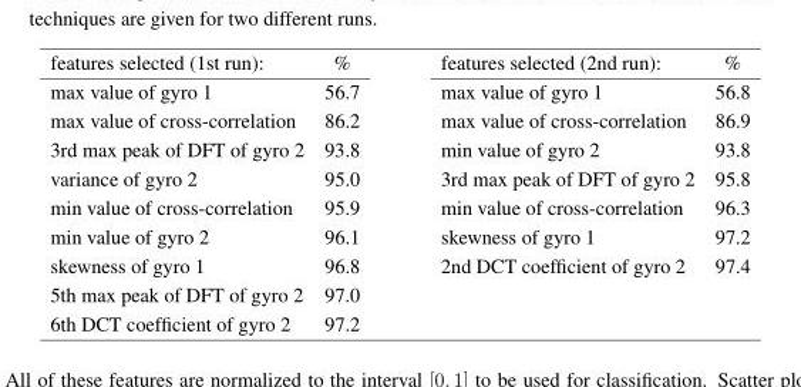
<table><thead><tr><td>features selected (1st run):</td><td>%</td><td>features selected (2nd run):</td><td>%</td></tr></thead><tbody><tr><td>max value of gyro 1</td><td>56.7</td><td>max value of gyro 1</td><td>56.8</td></tr><tr><td>max value of cross-correlation</td><td>86.2</td><td>max value of cross-correlation</td><td>86.9</td></tr><tr><td>3rd max peak of DFT of gyro 2</td><td>93.8</td><td>min value of gyro 2</td><td>93.8</td></tr><tr><td>variance of gyro 2</td><td>95.0</td><td>3rd max peak of DFT of gyro 2</td><td>95.8</td></tr><tr><td>min value of cross-correlation</td><td>95.9</td><td>min value of cross-correlation</td><td>96.3</td></tr><tr><td>min value of gyro 2</td><td>96.1</td><td>skewness of gyro 1</td><td>97.2</td></tr><tr><td>skewness of gyro 1</td><td>96.8</td><td>2nd DCT coefficient of gyro 2</td><td>97.4</td></tr><tr><td>5th max peak of DFT of gyro 2</td><td>97.0</td><td></td><td></td></tr><tr><td>6th DCT coefficient of gyro 2</td><td>97.2</td><td></td><td></td></tr></tbody></table>